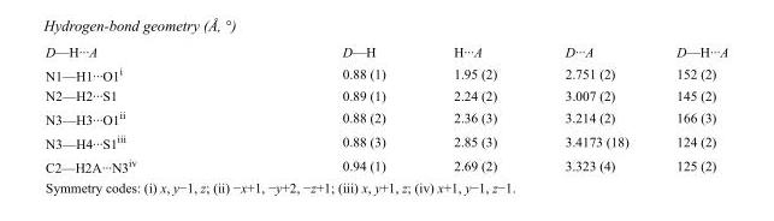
<table><tbody><tr><td>D—H···A</td><td>D—H</td><td>H···A</td><td>D···A</td><td>D—H···A</td></tr><tr><td>N1—H1···O1<sup>i</sup></td><td>0.88 (1)</td><td>1.95 (2)</td><td>2.751 (2)</td><td>152 (2)</td></tr><tr><td>N2—H2···S1</td><td>0.89 (1)</td><td>2.24 (2)</td><td>3.007 (2)</td><td>145 (2)</td></tr><tr><td>N3—H3···O1<sup>ii</sup></td><td>0.88 (2)</td><td>2.36 (3)</td><td>3.214 (2)</td><td>166 (3)</td></tr><tr><td>N3—H4···S1<sup>iii</sup></td><td>0.88 (3)</td><td>2.85 (3)</td><td>3.4173 (18)</td><td>124 (2)</td></tr><tr><td>C2—H2A···N3<sup>iv</sup></td><td>0.94 (1)</td><td>2.69 (2)</td><td>3.323 (4)</td><td>125 (2)</td></tr></tbody></table>